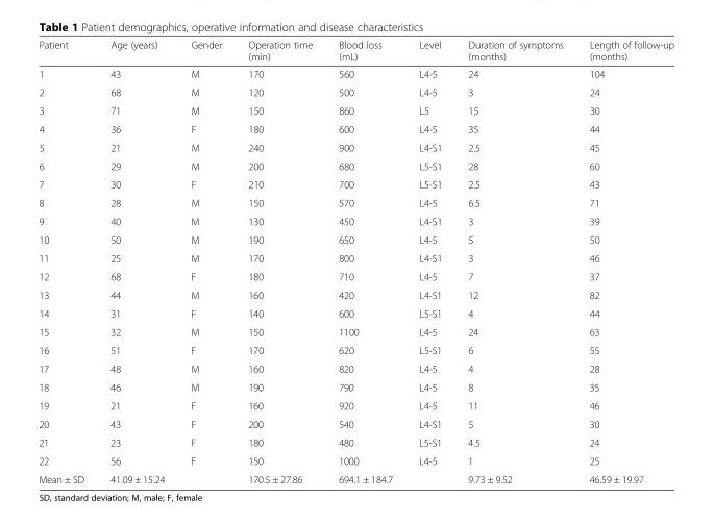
<table><thead><tr><td>Patient</td><td>Age (years)</td><td>Gender</td><td>Operation time (min)</td><td>Blood loss (mL)</td><td>Level</td><td>Duration of symptoms (months)</td><td>Length of follow-up (months)</td></tr></thead><tbody><tr><td>1</td><td>43</td><td>M</td><td>170</td><td>560</td><td>L4-5</td><td>24</td><td>104</td></tr><tr><td>2</td><td>68</td><td>M</td><td>120</td><td>500</td><td>L4-5</td><td>3</td><td>24</td></tr><tr><td>3</td><td>71</td><td>M</td><td>150</td><td>860</td><td>L5</td><td>15</td><td>30</td></tr><tr><td>4</td><td>36</td><td>F</td><td>180</td><td>600</td><td>L4-5</td><td>35</td><td>44</td></tr><tr><td>5</td><td>21</td><td>M</td><td>240</td><td>900</td><td>L4-S1</td><td>2.5</td><td>45</td></tr><tr><td>6</td><td>29</td><td>M</td><td>200</td><td>680</td><td>L5-S1</td><td>28</td><td>60</td></tr><tr><td>7</td><td>30</td><td>F</td><td>210</td><td>700</td><td>L5-S1</td><td>2.5</td><td>43</td></tr><tr><td>8</td><td>28</td><td>M</td><td>150</td><td>570</td><td>L4-5</td><td>6.5</td><td>71</td></tr><tr><td>9</td><td>40</td><td>M</td><td>130</td><td>450</td><td>L4-S1</td><td>3</td><td>39</td></tr><tr><td>10</td><td>50</td><td>M</td><td>190</td><td>650</td><td>L4-5</td><td>5</td><td>50</td></tr><tr><td>11</td><td>25</td><td>M</td><td>170</td><td>800</td><td>L4-S1</td><td>3</td><td>46</td></tr><tr><td>12</td><td>68</td><td>F</td><td>180</td><td>710</td><td>L4-5</td><td>7</td><td>37</td></tr><tr><td>13</td><td>44</td><td>M</td><td>160</td><td>420</td><td>L4-S1</td><td>12</td><td>82</td></tr><tr><td>14</td><td>31</td><td>F</td><td>140</td><td>600</td><td>L5-S1</td><td>4</td><td>44</td></tr><tr><td>15</td><td>32</td><td>M</td><td>150</td><td>1100</td><td>L4-5</td><td>24</td><td>63</td></tr><tr><td>16</td><td>51</td><td>F</td><td>170</td><td>620</td><td>L5-S1</td><td>6</td><td>55</td></tr><tr><td>17</td><td>48</td><td>M</td><td>160</td><td>820</td><td>L4-5</td><td>4</td><td>28</td></tr><tr><td>18</td><td>46</td><td>M</td><td>190</td><td>790</td><td>L4-5</td><td>8</td><td>35</td></tr><tr><td>19</td><td>21</td><td>F</td><td>160</td><td>920</td><td>L4-5</td><td>11</td><td>46</td></tr><tr><td>20</td><td>43</td><td>F</td><td>200</td><td>540</td><td>L4-S1</td><td>5</td><td>30</td></tr><tr><td>21</td><td>23</td><td>F</td><td>180</td><td>480</td><td>L5-S1</td><td>4.5</td><td>24</td></tr><tr><td>22</td><td>56</td><td>F</td><td>150</td><td>1000</td><td>L4-5</td><td>1</td><td>25</td></tr><tr><td>Mean ± SD</td><td>41.09 ± 15.24</td><td></td><td>170.5 ± 27.86</td><td>694.1 ± 184.7</td><td></td><td>9.73 ± 9.52</td><td>46.59 ± 19.97</td></tr></tbody></table>